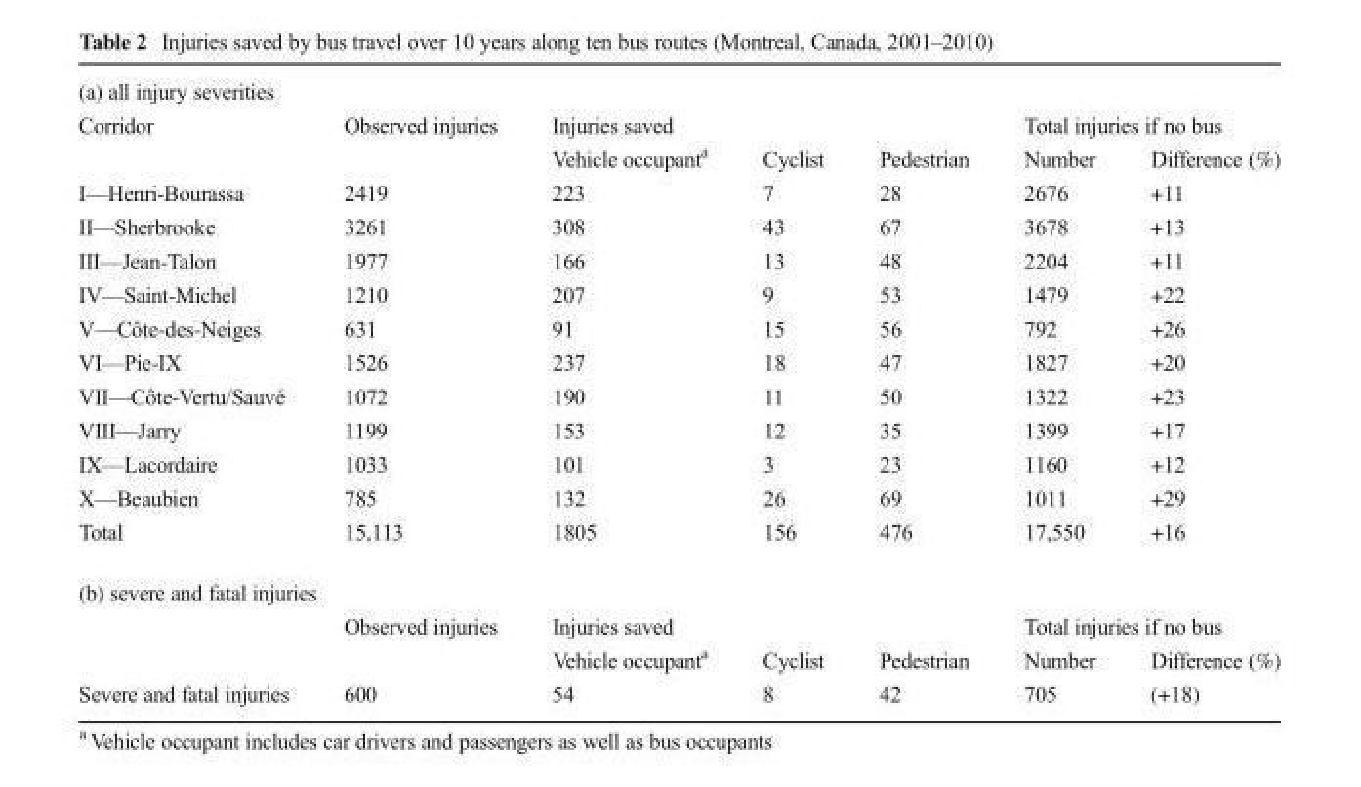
<table><tbody><tr><td colspan="7">(a) all injury severities</td></tr><tr><td rowspan="2">Corridor</td><td rowspan="2">Observed injuries</td><td colspan="3">Injuries saved</td><td colspan="2">Total injuries if no bus</td></tr><tr><td>Vehicle occupant<sup>a</sup></td><td>Cyclist</td><td>Pedestrian</td><td>Number</td><td>Difference (%)</td></tr><tr><td>I—Henri-Bourassa</td><td>2419</td><td>223</td><td>7</td><td>28</td><td>2676</td><td>+11</td></tr><tr><td>II—Sherbrooke</td><td>3261</td><td>308</td><td>43</td><td>67</td><td>3678</td><td>+13</td></tr><tr><td>III—Jean-Talon</td><td>1977</td><td>166</td><td>13</td><td>48</td><td>2204</td><td>+11</td></tr><tr><td>IV—Saint-Michel</td><td>1210</td><td>207</td><td>9</td><td>53</td><td>1479</td><td>+22</td></tr><tr><td>V—Côte-des-Neiges</td><td>631</td><td>91</td><td>15</td><td>56</td><td>792</td><td>+26</td></tr><tr><td>VI—Pie-IX</td><td>1526</td><td>237</td><td>18</td><td>47</td><td>1827</td><td>+20</td></tr><tr><td>VII—Côte-Vertu/Sauvé</td><td>1072</td><td>190</td><td>11</td><td>50</td><td>1322</td><td>+23</td></tr><tr><td>VIII—Jarry</td><td>1199</td><td>153</td><td>12</td><td>35</td><td>1399</td><td>+17</td></tr><tr><td>IX—Lacordaire</td><td>1033</td><td>101</td><td>3</td><td>23</td><td>1160</td><td>+12</td></tr><tr><td>X—Beaubien</td><td>785</td><td>132</td><td>26</td><td>69</td><td>1011</td><td>+29</td></tr><tr><td>Total</td><td>15,113</td><td>1805</td><td>156</td><td>476</td><td>17,550</td><td>+16</td></tr><tr><td colspan="7">(b) severe and fatal injuries</td></tr><tr><td rowspan="2"></td><td rowspan="2">Observed injuries</td><td colspan="3">Injuries saved</td><td colspan="2">Total injuries if no bus</td></tr><tr><td>Vehicle occupant<sup>a</sup></td><td>Cyclist</td><td>Pedestrian</td><td>Number</td><td>Difference (%)</td></tr><tr><td>Severe and fatal injuries</td><td>600</td><td>54</td><td>8</td><td>42</td><td>705</td><td>(+18)</td></tr></tbody></table>